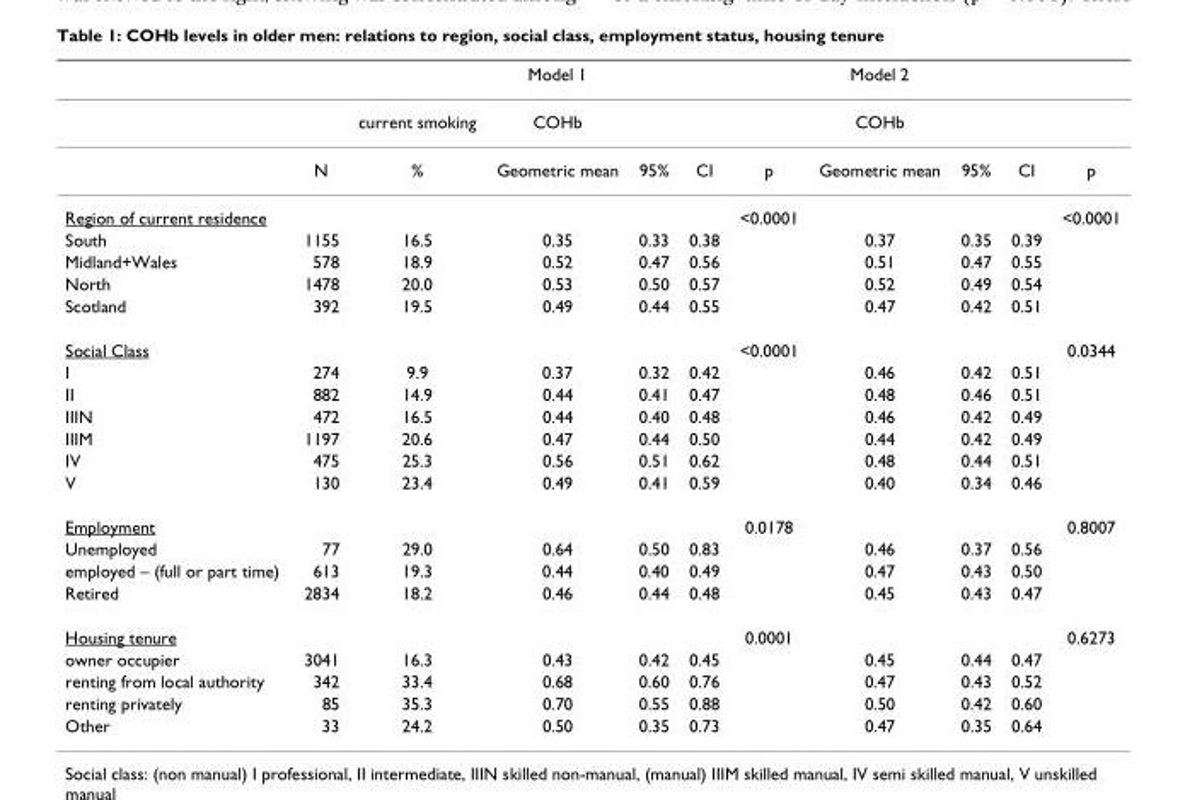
<table><thead><tr><td></td><td></td><td></td><td>Model 1</td><td></td><td></td><td></td><td>Model 2</td><td></td><td></td><td></td></tr></thead><tbody><tr><td></td><td></td><td>current smoking</td><td>COHb</td><td></td><td></td><td></td><td>COHb</td><td></td><td></td><td></td></tr><tr><td></td><td>N</td><td>%</td><td>Geometric mean</td><td>95%</td><td>CI</td><td>p</td><td>Geometric mean</td><td>95%</td><td>CI</td><td>p</td></tr><tr><td>Region of current residence</td><td></td><td></td><td></td><td></td><td></td><td>&lt;0.0001</td><td></td><td></td><td></td><td>&lt;0.0001</td></tr><tr><td>South</td><td>1155</td><td>16.5</td><td>0.35</td><td>0.33</td><td>0.38</td><td></td><td>0.37</td><td>0.35</td><td>0.39</td><td></td></tr><tr><td>Midland+Wales</td><td>578</td><td>18.9</td><td>0.52</td><td>0.47</td><td>0.56</td><td></td><td>0.51</td><td>0.47</td><td>0.55</td><td></td></tr><tr><td>North</td><td>1478</td><td>20.0</td><td>0.53</td><td>0.50</td><td>0.57</td><td></td><td>0.52</td><td>0.49</td><td>0.54</td><td></td></tr><tr><td>Scotland</td><td>392</td><td>19.5</td><td>0.49</td><td>0.44</td><td>0.55</td><td></td><td>0.47</td><td>0.42</td><td>0.51</td><td></td></tr><tr><td>Social Class</td><td></td><td></td><td></td><td></td><td></td><td>&lt;0.0001</td><td></td><td></td><td></td><td>0.0344</td></tr><tr><td>I</td><td>274</td><td>9.9</td><td>0.37</td><td>0.32</td><td>0.42</td><td></td><td>0.46</td><td>0.42</td><td>0.51</td><td></td></tr><tr><td>II</td><td>882</td><td>14.9</td><td>0.44</td><td>0.41</td><td>0.47</td><td></td><td>0.48</td><td>0.46</td><td>0.51</td><td></td></tr><tr><td>IIIN</td><td>472</td><td>16.5</td><td>0.44</td><td>0.40</td><td>0.48</td><td></td><td>0.46</td><td>0.42</td><td>0.49</td><td></td></tr><tr><td>IIIM</td><td>1197</td><td>20.6</td><td>0.47</td><td>0.44</td><td>0.50</td><td></td><td>0.44</td><td>0.42</td><td>0.49</td><td></td></tr><tr><td>IV</td><td>475</td><td>25.3</td><td>0.56</td><td>0.51</td><td>0.62</td><td></td><td>0.48</td><td>0.44</td><td>0.51</td><td></td></tr><tr><td>V</td><td>130</td><td>23.4</td><td>0.49</td><td>0.41</td><td>0.59</td><td></td><td>0.40</td><td>0.34</td><td>0.46</td><td></td></tr><tr><td>Employment</td><td></td><td></td><td></td><td></td><td></td><td>0.0178</td><td></td><td></td><td></td><td>0.8007</td></tr><tr><td>Unemployed</td><td>77</td><td>29.0</td><td>0.64</td><td>0.50</td><td>0.83</td><td></td><td>0.46</td><td>0.37</td><td>0.56</td><td></td></tr><tr><td>employed – (full or part time)</td><td>613</td><td>19.3</td><td>0.44</td><td>0.40</td><td>0.49</td><td></td><td>0.47</td><td>0.43</td><td>0.50</td><td></td></tr><tr><td>Retired</td><td>2834</td><td>18.2</td><td>0.46</td><td>0.44</td><td>0.48</td><td></td><td>0.45</td><td>0.43</td><td>0.47</td><td></td></tr><tr><td>Housing tenure</td><td></td><td></td><td></td><td></td><td></td><td>0.0001</td><td></td><td></td><td></td><td>0.6273</td></tr><tr><td>owner occupier</td><td>3041</td><td>16.3</td><td>0.43</td><td>0.42</td><td>0.45</td><td></td><td>0.45</td><td>0.44</td><td>0.47</td><td></td></tr><tr><td>renting from local authority</td><td>342</td><td>33.4</td><td>0.68</td><td>0.60</td><td>0.76</td><td></td><td>0.47</td><td>0.43</td><td>0.52</td><td></td></tr><tr><td>renting privately</td><td>85</td><td>35.3</td><td>0.70</td><td>0.55</td><td>0.88</td><td></td><td>0.50</td><td>0.42</td><td>0.60</td><td></td></tr><tr><td>Other</td><td>33</td><td>24.2</td><td>0.50</td><td>0.35</td><td>0.73</td><td></td><td>0.47</td><td>0.35</td><td>0.64</td><td></td></tr></tbody></table>